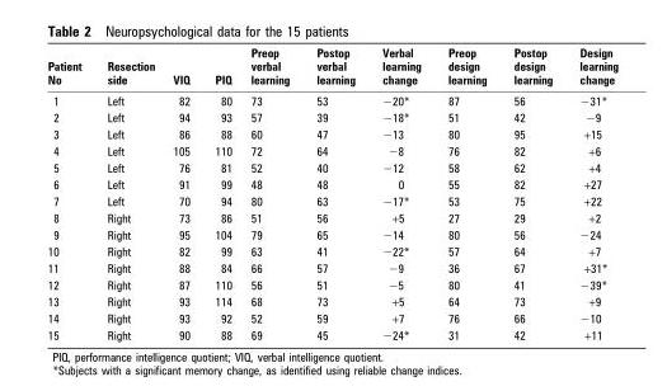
<table><thead><tr><td>Patient No</td><td>Resection side</td><td>VIQ</td><td>PIQ</td><td>Preop verbal learning</td><td>Postop verbal learning</td><td>Verbal learning change</td><td>Preop design learning</td><td>Postop design learning</td><td>Design learning change</td></tr></thead><tbody><tr><td>1</td><td>Left</td><td>82</td><td>80</td><td>73</td><td>53</td><td>−20*</td><td>87</td><td>56</td><td>−31*</td></tr><tr><td>2</td><td>Left</td><td>94</td><td>93</td><td>57</td><td>39</td><td>−18*</td><td>51</td><td>42</td><td>−9</td></tr><tr><td>3</td><td>Left</td><td>86</td><td>88</td><td>60</td><td>47</td><td>−13</td><td>80</td><td>95</td><td>+15</td></tr><tr><td>4</td><td>Left</td><td>105</td><td>110</td><td>72</td><td>64</td><td>−8</td><td>76</td><td>82</td><td>+6</td></tr><tr><td>5</td><td>Left</td><td>76</td><td>81</td><td>52</td><td>40</td><td>−12</td><td>58</td><td>62</td><td>+4</td></tr><tr><td>6</td><td>Left</td><td>91</td><td>99</td><td>48</td><td>48</td><td>0</td><td>55</td><td>82</td><td>+27</td></tr><tr><td>7</td><td>Left</td><td>70</td><td>94</td><td>80</td><td>63</td><td>−17*</td><td>53</td><td>75</td><td>+22</td></tr><tr><td>8</td><td>Right</td><td>73</td><td>86</td><td>51</td><td>56</td><td>+5</td><td>27</td><td>29</td><td>+2</td></tr><tr><td>9</td><td>Right</td><td>95</td><td>104</td><td>79</td><td>65</td><td>−14</td><td>80</td><td>56</td><td>−24</td></tr><tr><td>10</td><td>Right</td><td>82</td><td>99</td><td>63</td><td>41</td><td>−22*</td><td>57</td><td>64</td><td>+7</td></tr><tr><td>11</td><td>Right</td><td>88</td><td>84</td><td>66</td><td>57</td><td>−9</td><td>36</td><td>67</td><td>+31*</td></tr><tr><td>12</td><td>Right</td><td>87</td><td>110</td><td>56</td><td>51</td><td>−5</td><td>80</td><td>41</td><td>−39*</td></tr><tr><td>13</td><td>Right</td><td>93</td><td>114</td><td>68</td><td>73</td><td>+5</td><td>64</td><td>73</td><td>+9</td></tr><tr><td>14</td><td>Right</td><td>93</td><td>92</td><td>52</td><td>59</td><td>+7</td><td>76</td><td>66</td><td>−10</td></tr><tr><td>15</td><td>Right</td><td>90</td><td>88</td><td>69</td><td>45</td><td>−24*</td><td>31</td><td>42</td><td>+11</td></tr></tbody></table>